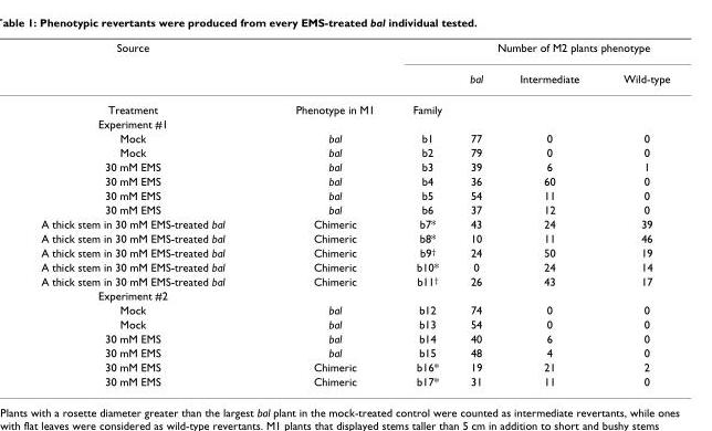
<table><thead><tr><td rowspan="2">Source</td><td rowspan="2"></td><td rowspan="2"></td><td colspan="3">Number of M2 plants phenotype</td></tr><tr><td>bal</td><td>Intermediate</td><td>Wild-type</td></tr></thead><tbody><tr><td>Treatment</td><td>Phenotype in M1</td><td>Family</td><td></td><td></td><td></td></tr><tr><td colspan="6">Experiment #1</td></tr><tr><td>Mock</td><td>bal</td><td>b1</td><td>77</td><td>0</td><td>0</td></tr><tr><td>Mock</td><td>bal</td><td>b2</td><td>79</td><td>0</td><td>0</td></tr><tr><td>30 mM EMS</td><td>bal</td><td>b3</td><td>39</td><td>6</td><td>1</td></tr><tr><td>30 mM EMS</td><td>bal</td><td>b4</td><td>36</td><td>60</td><td>0</td></tr><tr><td>30 mM EMS</td><td>bal</td><td>b5</td><td>54</td><td>11</td><td>0</td></tr><tr><td>30 mM EMS</td><td>bal</td><td>b6</td><td>37</td><td>12</td><td>0</td></tr><tr><td>A thick stem in 30 mM EMS-treated bal</td><td>Chimeric</td><td>b7*</td><td>43</td><td>24</td><td>39</td></tr><tr><td>A thick stem in 30 mM EMS-treated bal</td><td>Chimeric</td><td>b8*</td><td>10</td><td>11</td><td>46</td></tr><tr><td>A thick stem in 30 mM EMS-treated bal</td><td>Chimeric</td><td>b9<sup>†</sup></td><td>24</td><td>50</td><td>19</td></tr><tr><td>A thick stem in 30 mM EMS-treated bal</td><td>Chimeric</td><td>b10*</td><td>0</td><td>24</td><td>14</td></tr><tr><td>A thick stem in 30 mM EMS-treated bal</td><td>Chimeric</td><td>b11<sup>†</sup></td><td>26</td><td>43</td><td>17</td></tr><tr><td colspan="6">Experiment #2</td></tr><tr><td>Mock</td><td>bal</td><td>b12</td><td>74</td><td>0</td><td>0</td></tr><tr><td>Mock</td><td>bal</td><td>b13</td><td>54</td><td>0</td><td>0</td></tr><tr><td>30 mM EMS</td><td>bal</td><td>b14</td><td>40</td><td>6</td><td>0</td></tr><tr><td>30 mM EMS</td><td>bal</td><td>b15</td><td>48</td><td>4</td><td>0</td></tr><tr><td>30 mM EMS</td><td>Chimeric</td><td>b16*</td><td>19</td><td>21</td><td>2</td></tr><tr><td>30 mM EMS</td><td>Chimeric</td><td>b17*</td><td>31</td><td>11</td><td>0</td></tr></tbody></table>